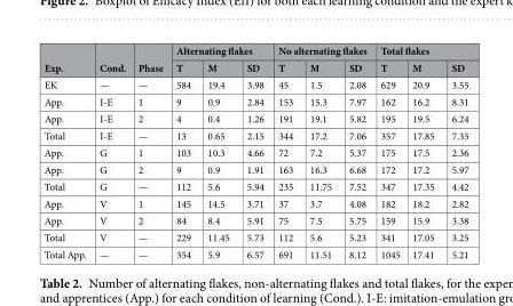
<table><thead><tr><td rowspan="2">Exp.</td><td rowspan="2">Cond.</td><td rowspan="2">Phase</td><td colspan="3">Alternating flakes</td><td colspan="3">No alternating flakes</td><td colspan="3">Total flakes</td></tr><tr><td>T</td><td>M</td><td>SD</td><td>T</td><td>M</td><td>SD</td><td>T</td><td>M</td><td>SD</td></tr></thead><tbody><tr><td>EK</td><td>—</td><td>—</td><td>584</td><td>19.4</td><td>3.98</td><td>45</td><td>1.5</td><td>2.08</td><td>629</td><td>20.9</td><td>3.55</td></tr><tr><td>App.</td><td>I-E</td><td>1</td><td>9</td><td>0.9</td><td>2.84</td><td>153</td><td>15.3</td><td>7.97</td><td>162</td><td>16.2</td><td>8.31</td></tr><tr><td>App.</td><td>I-E</td><td>2</td><td>4</td><td>0.4</td><td>1.26</td><td>191</td><td>19.1</td><td>5.82</td><td>195</td><td>19.5</td><td>6.24</td></tr><tr><td>Total</td><td>I-E</td><td>—</td><td>13</td><td>0.65</td><td>2.15</td><td>344</td><td>17.2</td><td>7.06</td><td>357</td><td>17.85</td><td>7.35</td></tr><tr><td>App.</td><td>G</td><td>1</td><td>103</td><td>10.3</td><td>4.66</td><td>72</td><td>7.2</td><td>5.37</td><td>175</td><td>17.5</td><td>2.36</td></tr><tr><td>App.</td><td>G</td><td>2</td><td>9</td><td>0.9</td><td>1.91</td><td>163</td><td>16.3</td><td>6.68</td><td>172</td><td>17.2</td><td>5.97</td></tr><tr><td>Total</td><td>G</td><td>—</td><td>112</td><td>5.6</td><td>5.94</td><td>235</td><td>11.75</td><td>7.52</td><td>347</td><td>17.35</td><td>4.42</td></tr><tr><td>App.</td><td>V</td><td>1</td><td>145</td><td>14.5</td><td>3.71</td><td>37</td><td>3.7</td><td>4.08</td><td>182</td><td>18.2</td><td>2.82</td></tr><tr><td>App.</td><td>V</td><td>2</td><td>84</td><td>8.4</td><td>5.91</td><td>75</td><td>7.5</td><td>5.75</td><td>159</td><td>15.9</td><td>3.38</td></tr><tr><td>Total</td><td>V</td><td>—</td><td>229</td><td>11.45</td><td>5.73</td><td>112</td><td>5.6</td><td>5.23</td><td>341</td><td>17.05</td><td>3.25</td></tr><tr><td>Total App.</td><td>—</td><td>—</td><td>354</td><td>5.9</td><td>6.57</td><td>691</td><td>11.51</td><td>8.12</td><td>1045</td><td>17.41</td><td>5.21</td></tr></tbody></table>